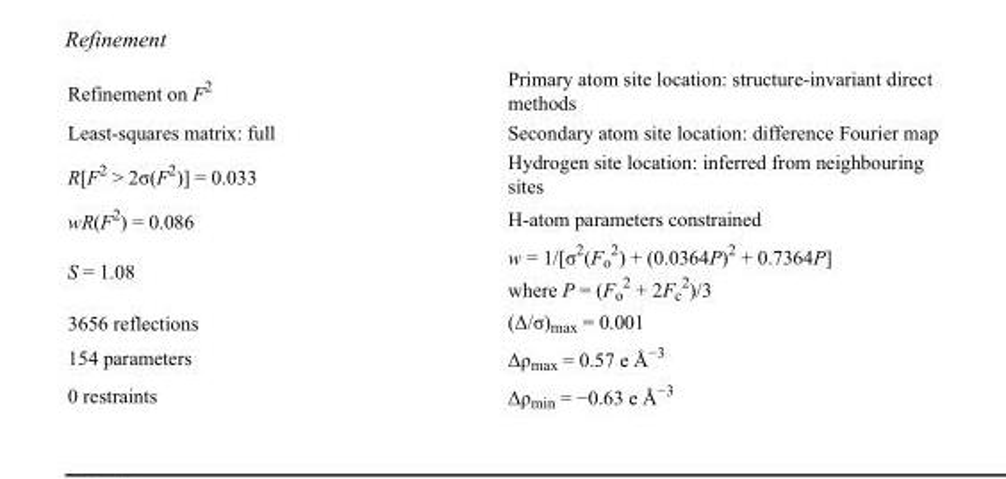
<table><tbody><tr><td>Refinement on F<sup>2</sup></td><td>Primary atom site location: structure-invariant direct methods</td></tr><tr><td>Least-squares matrix: full</td><td>Secondary atom site location: difference Fourier map</td></tr><tr><td>R[F<sup>2</sup> &gt; 2σ(F<sup>2</sup>)] = 0.033</td><td>Hydrogen site location: inferred from neighbouring sites</td></tr><tr><td>wR(F<sup>2</sup>) = 0.086</td><td>H-atom parameters constrained</td></tr><tr><td>S = 1.08</td><td>w = 1/[σ<sup>2</sup>(F<sub>o</sub> <sup>2</sup>) + (0.0364P)<sup>2</sup> + 0.7364P] where P = (F<sub>o</sub> <sup>2</sup> + 2F<sub>c</sub> <sup>2</sup>)/3</td></tr><tr><td>3656 reflections</td><td>(Δ/σ)<sub>max</sub> = 0.001</td></tr><tr><td>154 parameters</td><td>Δρ<sub>max</sub> = 0.57 e Å<sup>−3</sup></td></tr><tr><td>0 restraints</td><td>Δρ<sub>min</sub> = −0.63 e Å<sup>−3</sup></td></tr></tbody></table>